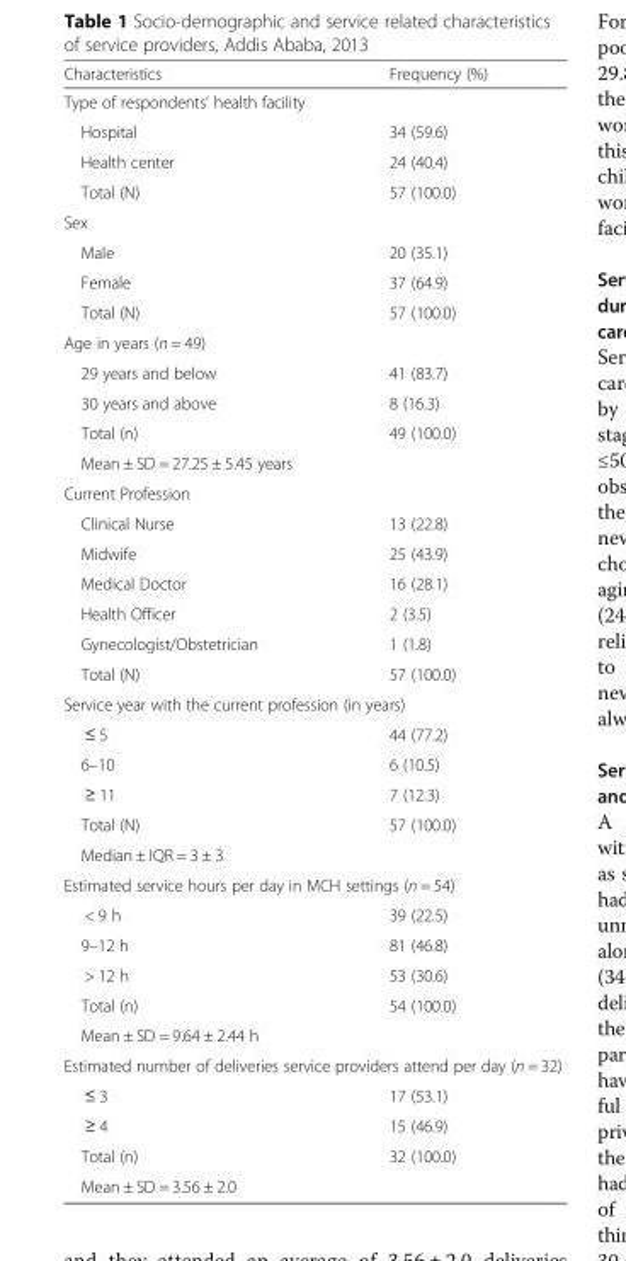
<table><thead><tr><td>Characteristics</td><td>Frequency (%)</td></tr></thead><tbody><tr><td colspan="2">Type of respondents’ health facility</td></tr><tr><td>Hospital</td><td>34 (59.6)</td></tr><tr><td>Health center</td><td>24 (40.4)</td></tr><tr><td>Total (N)</td><td>57 (100.0)</td></tr><tr><td colspan="2">Sex</td></tr><tr><td>Male</td><td>20 (35.1)</td></tr><tr><td>Female</td><td>37 (64.9)</td></tr><tr><td>Total (N)</td><td>57 (100.0)</td></tr><tr><td colspan="2">Age in years (n = 49)</td></tr><tr><td>29 years and below</td><td>41 (83.7)</td></tr><tr><td>30 years and above</td><td>8 (16.3)</td></tr><tr><td>Total (n)</td><td>49 (100.0)</td></tr><tr><td colspan="2">Mean ± SD = 27.25 ± 5.45 years</td></tr><tr><td colspan="2">Current Profession</td></tr><tr><td>Clinical Nurse</td><td>13 (22.8)</td></tr><tr><td>Midwife</td><td>25 (43.9)</td></tr><tr><td>Medical Doctor</td><td>16 (28.1)</td></tr><tr><td>Health Officer</td><td>2 (3.5)</td></tr><tr><td>Gynecologist/Obstetrician</td><td>1 (1.8)</td></tr><tr><td>Total (N)</td><td>57 (100.0)</td></tr><tr><td colspan="2">Service year with the current profession (in years)</td></tr><tr><td>≤ 5</td><td>44 (77.2)</td></tr><tr><td>6–10</td><td>6 (10.5)</td></tr><tr><td>≥ 11</td><td>7 (12.3)</td></tr><tr><td>Total (N)</td><td>57 (100.0)</td></tr><tr><td colspan="2">Median ± IQR = 3 ± 3</td></tr><tr><td colspan="2">Estimated service hours per day in MCH settings (n = 54)</td></tr><tr><td>&lt; 9 h</td><td>39 (22.5)</td></tr><tr><td>9–12 h</td><td>81 (46.8)</td></tr><tr><td>&gt; 12 h</td><td>53 (30.6)</td></tr><tr><td>Total (n)</td><td>54 (100.0)</td></tr><tr><td colspan="2">Mean ± SD = 9.64 ± 2.44 h</td></tr><tr><td colspan="2">Estimated number of deliveries service providers attend per day (n = 32)</td></tr><tr><td>≤ 3</td><td>17 (53.1)</td></tr><tr><td>≥ 4</td><td>15 (46.9)</td></tr><tr><td>Total (n)</td><td>32 (100.0)</td></tr><tr><td>Mean ± SD = 3.56 ± 2.0</td><td></td></tr></tbody></table>